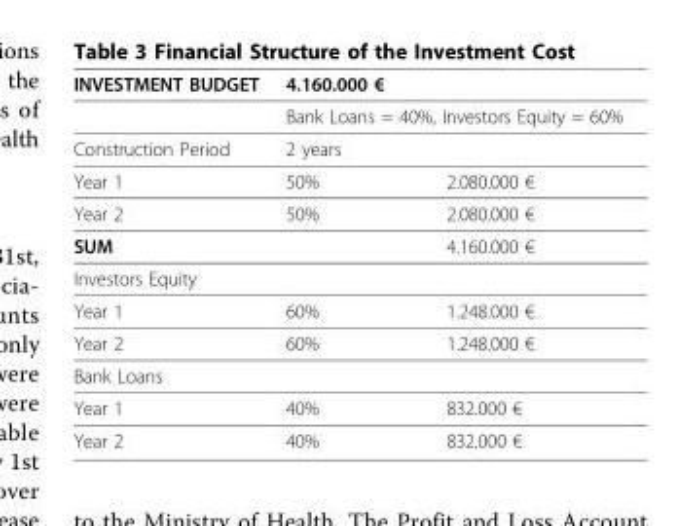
<table><thead><tr><td rowspan="4">INVESTMENT BUDGET Construction Period Year 1</td><td rowspan="3" colspan="2">4.160.000 € Bank Loans = 40%, Investors Equity = 60% 2 years</td></tr><tr></tr><tr></tr><tr><td>50%</td><td>2.080.000 €</td></tr></thead><tbody><tr><td>Year 2</td><td>50%</td><td>2.080.000 €</td></tr><tr><td>SUM</td><td></td><td>4.160.000 €</td></tr><tr><td colspan="3">Investors Equity</td></tr><tr><td>Year 1</td><td>60%</td><td>1.248.000 €</td></tr><tr><td>Year 2</td><td>60%</td><td>1.248.000 €</td></tr><tr><td colspan="3">Bank Loans</td></tr><tr><td>Year 1</td><td>40%</td><td>832.000 €</td></tr><tr><td>Year 2</td><td>40%</td><td>832.000 €</td></tr></tbody></table>